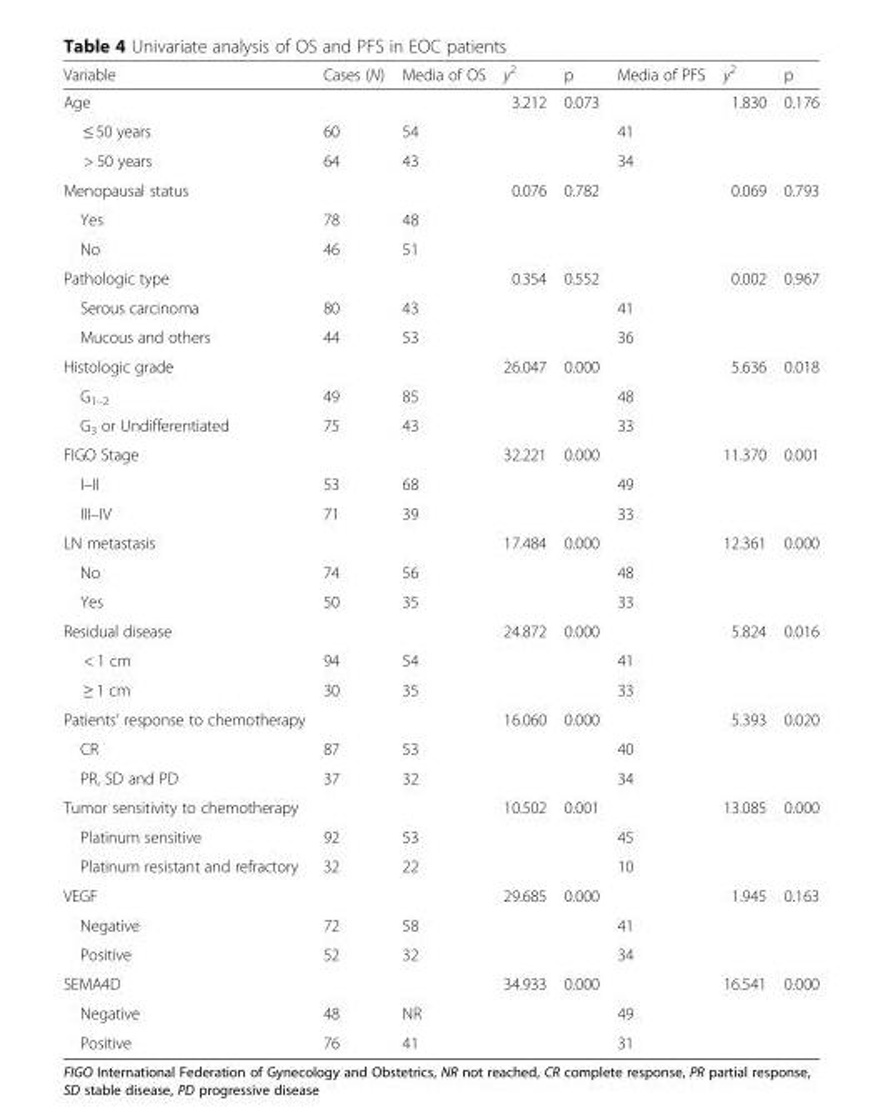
<table><thead><tr><td>Variable</td><td>Cases (N)</td><td>Media of OS</td><td>y<sup>2</sup></td><td>p</td><td>Media of PFS</td><td>y<sup>2</sup></td><td>p</td></tr></thead><tbody><tr><td>Age</td><td></td><td></td><td>3.212</td><td>0.073</td><td></td><td>1.830</td><td>0.176</td></tr><tr><td>≤ 50 years</td><td>60</td><td>54</td><td></td><td></td><td>41</td><td></td><td rowspan="2"></td></tr><tr><td>&gt; 50 years</td><td>64</td><td>43</td><td></td><td></td><td>34</td><td></td></tr><tr><td>Menopausal status</td><td></td><td></td><td>0.076</td><td>0.782</td><td></td><td>0.069</td><td>0.793</td></tr><tr><td>Yes</td><td>78</td><td>48</td><td></td><td></td><td></td><td></td><td rowspan="2"></td></tr><tr><td>No</td><td>46</td><td>51</td><td></td><td></td><td></td><td></td></tr><tr><td>Pathologic type</td><td></td><td></td><td>0.354</td><td>0.552</td><td></td><td>0.002</td><td>0.967</td></tr><tr><td>Serous carcinoma</td><td>80</td><td>43</td><td></td><td></td><td>41</td><td></td><td rowspan="2"></td></tr><tr><td>Mucous and others</td><td>44</td><td>53</td><td></td><td></td><td>36</td><td></td></tr><tr><td>Histologic grade</td><td></td><td></td><td>26.047</td><td>0.000</td><td></td><td>5.636</td><td>0.018</td></tr><tr><td>G<sub>1–2</sub></td><td>49</td><td>85</td><td></td><td></td><td>48</td><td></td><td rowspan="2"></td></tr><tr><td>G<sub>3</sub> or Undifferentiated</td><td>75</td><td>43</td><td></td><td></td><td>33</td><td></td></tr><tr><td>FIGO Stage</td><td></td><td></td><td>32.221</td><td>0.000</td><td></td><td>11.370</td><td>0.001</td></tr><tr><td>I–II</td><td>53</td><td>68</td><td></td><td></td><td>49</td><td></td><td rowspan="2"></td></tr><tr><td>III–IV</td><td>71</td><td>39</td><td></td><td></td><td>33</td><td></td></tr><tr><td>LN metastasis</td><td></td><td></td><td>17.484</td><td>0.000</td><td></td><td>12.361</td><td>0.000</td></tr><tr><td>No</td><td>74</td><td>56</td><td></td><td></td><td>48</td><td></td><td rowspan="2"></td></tr><tr><td>Yes</td><td>50</td><td>35</td><td></td><td></td><td>33</td><td></td></tr><tr><td>Residual disease</td><td></td><td></td><td>24.872</td><td>0.000</td><td></td><td>5.824</td><td>0.016</td></tr><tr><td>&lt; 1 cm</td><td>94</td><td>54</td><td></td><td></td><td>41</td><td></td><td rowspan="2"></td></tr><tr><td>≥ 1 cm</td><td>30</td><td>35</td><td></td><td></td><td>33</td><td></td></tr><tr><td>Patients’ response to chemotherapy</td><td></td><td></td><td>16.060</td><td>0.000</td><td></td><td>5.393</td><td>0.020</td></tr><tr><td>CR</td><td>87</td><td>53</td><td></td><td></td><td>40</td><td></td><td rowspan="2"></td></tr><tr><td>PR, SD and PD</td><td>37</td><td>32</td><td></td><td></td><td>34</td><td></td></tr><tr><td>Tumor sensitivity to chemotherapy</td><td></td><td></td><td>10.502</td><td>0.001</td><td></td><td>13.085</td><td>0.000</td></tr><tr><td>Platinum sensitive</td><td>92</td><td>53</td><td></td><td></td><td>45</td><td></td><td rowspan="2"></td></tr><tr><td>Platinum resistant and refractory</td><td>32</td><td>22</td><td></td><td></td><td>10</td><td></td></tr><tr><td>VEGF</td><td></td><td></td><td>29.685</td><td>0.000</td><td></td><td>1.945</td><td>0.163</td></tr><tr><td>Negative</td><td>72</td><td>58</td><td></td><td></td><td>41</td><td></td><td rowspan="2"></td></tr><tr><td>Positive</td><td>52</td><td>32</td><td></td><td></td><td>34</td><td></td></tr><tr><td>SEMA4D</td><td></td><td></td><td>34.933</td><td>0.000</td><td></td><td>16.541</td><td>0.000</td></tr><tr><td>Negative</td><td>48</td><td>NR</td><td></td><td></td><td>49</td><td></td><td rowspan="2"></td></tr><tr><td>Positive</td><td>76</td><td>41</td><td></td><td></td><td>31</td><td></td></tr></tbody></table>